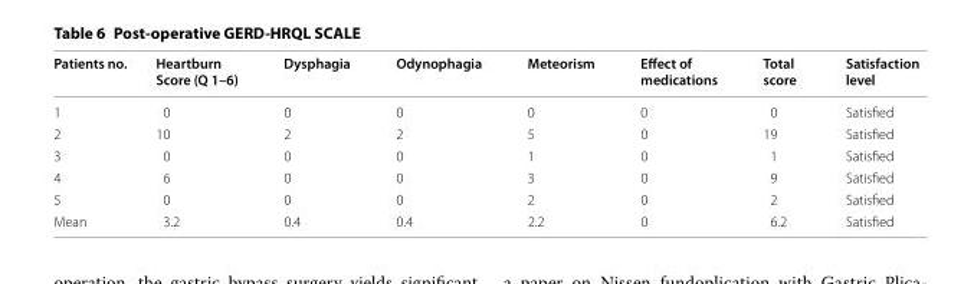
<table><thead><tr><td>Patients no.</td><td>Heartburn Score (Q 1–6)</td><td>Dysphagia</td><td>Odynophagia</td><td>Meteorism</td><td>Effect of medications</td><td>Total score</td><td>Satisfaction level</td></tr></thead><tbody><tr><td>1</td><td>0</td><td>0</td><td>0</td><td>0</td><td>0</td><td>0</td><td>Satisfied</td></tr><tr><td>2</td><td>10</td><td>2</td><td>2</td><td>5</td><td>0</td><td>19</td><td>Satisfied</td></tr><tr><td>3</td><td>0</td><td>0</td><td>0</td><td>1</td><td>0</td><td>1</td><td>Satisfied</td></tr><tr><td>4</td><td>6</td><td>0</td><td>0</td><td>3</td><td>0</td><td>9</td><td>Satisfied</td></tr><tr><td>5</td><td>0</td><td>0</td><td>0</td><td>2</td><td>0</td><td>2</td><td>Satisfied</td></tr><tr><td>Mean</td><td>3.2</td><td>0.4</td><td>0.4</td><td>2.2</td><td>0</td><td>6.2</td><td>Satisfied</td></tr></tbody></table>